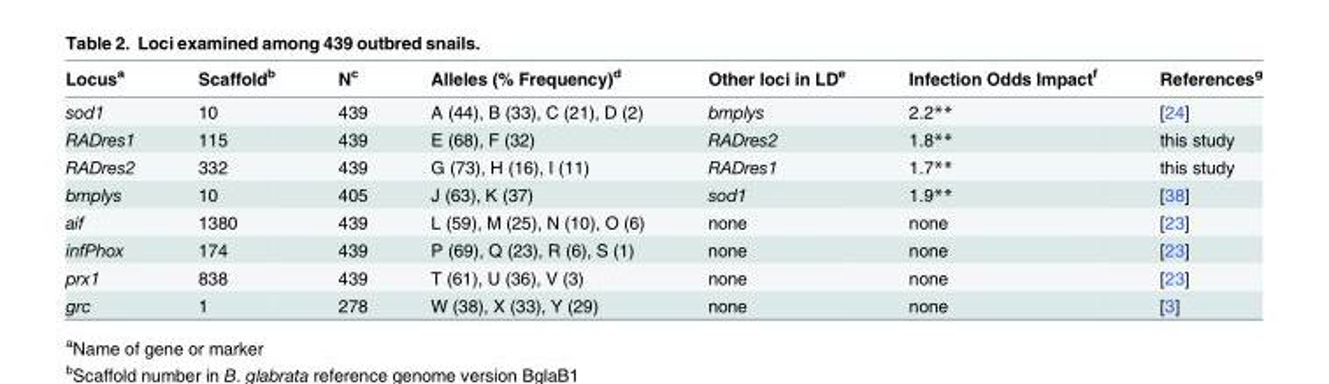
<table><thead><tr><td>Locus<sup>a</sup></td><td>Scaffold<sup>b</sup></td><td>N<sup>c</sup></td><td>Alleles (% Frequency)<sup>d</sup></td><td>Other loci in LD<sup>e</sup></td><td>Infection Odds Impact<sup>f</sup></td><td>References<sup>g</sup></td></tr></thead><tbody><tr><td>sod1</td><td>10</td><td>439</td><td>A (44), B (33), C (21), D (2)</td><td>bmplys</td><td>2.2**</td><td>[24]</td></tr><tr><td>RADres1</td><td>115</td><td>439</td><td>E (68), F (32)</td><td>RADres2</td><td>1.8**</td><td>this study</td></tr><tr><td>RADres2</td><td>332</td><td>439</td><td>G (73), H (16), I (11)</td><td>RADres1</td><td>1.7**</td><td>this study</td></tr><tr><td>bmplys</td><td>10</td><td>405</td><td>J (63), K (37)</td><td>sod1</td><td>1.9**</td><td>[38]</td></tr><tr><td>aif</td><td>1380</td><td>439</td><td>L (59), M (25), N (10), O (6)</td><td>none</td><td>none</td><td>[23]</td></tr><tr><td>infPhox</td><td>174</td><td>439</td><td>P (69), Q (23), R (6), S (1)</td><td>none</td><td>none</td><td>[23]</td></tr><tr><td>prx1</td><td>838</td><td>439</td><td>T (61), U (36), V (3)</td><td>none</td><td>none</td><td>[23]</td></tr><tr><td>grc</td><td>1</td><td>278</td><td>W (38), X (33), Y (29)</td><td>none</td><td>none</td><td>[3]</td></tr></tbody></table>